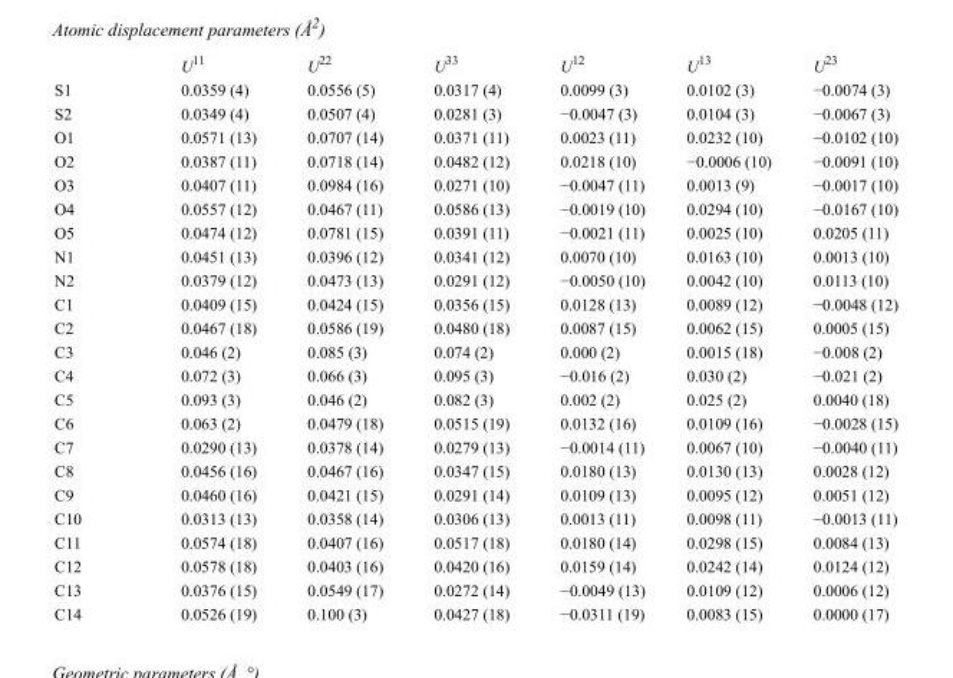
<table><thead><tr><td></td><td>U<sup>11</sup></td><td>U<sup>22</sup></td><td>U<sup>33</sup></td><td>U<sup>12</sup></td><td>U<sup>13</sup></td><td>U<sup>23</sup></td></tr></thead><tbody><tr><td>S1</td><td>0.0359 (4)</td><td>0.0556 (5)</td><td>0.0317 (4)</td><td>0.0099 (3)</td><td>0.0102 (3)</td><td>−0.0074 (3)</td></tr><tr><td>S2</td><td>0.0349 (4)</td><td>0.0507 (4)</td><td>0.0281 (3)</td><td>−0.0047 (3)</td><td>0.0104 (3)</td><td>−0.0067 (3)</td></tr><tr><td>O1</td><td>0.0571 (13)</td><td>0.0707 (14)</td><td>0.0371 (11)</td><td>0.0023 (11)</td><td>0.0232 (10)</td><td>−0.0102 (10)</td></tr><tr><td>O2</td><td>0.0387 (11)</td><td>0.0718 (14)</td><td>0.0482 (12)</td><td>0.0218 (10)</td><td>−0.0006 (10)</td><td>−0.0091 (10)</td></tr><tr><td>O3</td><td>0.0407 (11)</td><td>0.0984 (16)</td><td>0.0271 (10)</td><td>−0.0047 (11)</td><td>0.0013 (9)</td><td>−0.0017 (10)</td></tr><tr><td>O4</td><td>0.0557 (12)</td><td>0.0467 (11)</td><td>0.0586 (13)</td><td>−0.0019 (10)</td><td>0.0294 (10)</td><td>−0.0167 (10)</td></tr><tr><td>O5</td><td>0.0474 (12)</td><td>0.0781 (15)</td><td>0.0391 (11)</td><td>−0.0021 (11)</td><td>0.0025 (10)</td><td>0.0205 (11)</td></tr><tr><td>N1</td><td>0.0451 (13)</td><td>0.0396 (12)</td><td>0.0341 (12)</td><td>0.0070 (10)</td><td>0.0163 (10)</td><td>0.0013 (10)</td></tr><tr><td>N2</td><td>0.0379 (12)</td><td>0.0473 (13)</td><td>0.0291 (12)</td><td>−0.0050 (10)</td><td>0.0042 (10)</td><td>0.0113 (10)</td></tr><tr><td>C1</td><td>0.0409 (15)</td><td>0.0424 (15)</td><td>0.0356 (15)</td><td>0.0128 (13)</td><td>0.0089 (12)</td><td>−0.0048 (12)</td></tr><tr><td>C2</td><td>0.0467 (18)</td><td>0.0586 (19)</td><td>0.0480 (18)</td><td>0.0087 (15)</td><td>0.0062 (15)</td><td>0.0005 (15)</td></tr><tr><td>C3</td><td>0.046 (2)</td><td>0.085 (3)</td><td>0.074 (2)</td><td>0.000 (2)</td><td>0.0015 (18)</td><td>−0.008 (2)</td></tr><tr><td>C4</td><td>0.072 (3)</td><td>0.066 (3)</td><td>0.095 (3)</td><td>−0.016 (2)</td><td>0.030 (2)</td><td>−0.021 (2)</td></tr><tr><td>C5</td><td>0.093 (3)</td><td>0.046 (2)</td><td>0.082 (3)</td><td>0.002 (2)</td><td>0.025 (2)</td><td>0.0040 (18)</td></tr><tr><td>C6</td><td>0.063 (2)</td><td>0.0479 (18)</td><td>0.0515 (19)</td><td>0.0132 (16)</td><td>0.0109 (16)</td><td>−0.0028 (15)</td></tr><tr><td>C7</td><td>0.0290 (13)</td><td>0.0378 (14)</td><td>0.0279 (13)</td><td>−0.0014 (11)</td><td>0.0067 (10)</td><td>−0.0040 (11)</td></tr><tr><td>C8</td><td>0.0456 (16)</td><td>0.0467 (16)</td><td>0.0347 (15)</td><td>0.0180 (13)</td><td>0.0130 (13)</td><td>0.0028 (12)</td></tr><tr><td>C9</td><td>0.0460 (16)</td><td>0.0421 (15)</td><td>0.0291 (14)</td><td>0.0109 (13)</td><td>0.0095 (12)</td><td>0.0051 (12)</td></tr><tr><td>C10</td><td>0.0313 (13)</td><td>0.0358 (14)</td><td>0.0306 (13)</td><td>0.0013 (11)</td><td>0.0098 (11)</td><td>−0.0013 (11)</td></tr><tr><td>C11</td><td>0.0574 (18)</td><td>0.0407 (16)</td><td>0.0517 (18)</td><td>0.0180 (14)</td><td>0.0298 (15)</td><td>0.0084 (13)</td></tr><tr><td>C12</td><td>0.0578 (18)</td><td>0.0403 (16)</td><td>0.0420 (16)</td><td>0.0159 (14)</td><td>0.0242 (14)</td><td>0.0124 (12)</td></tr><tr><td>C13</td><td>0.0376 (15)</td><td>0.0549 (17)</td><td>0.0272 (14)</td><td>−0.0049 (13)</td><td>0.0109 (12)</td><td>0.0006 (12)</td></tr><tr><td>C14</td><td>0.0526 (19)</td><td>0.100 (3)</td><td>0.0427 (18)</td><td>−0.0311 (19)</td><td>0.0083 (15)</td><td>0.0000 (17)</td></tr></tbody></table>